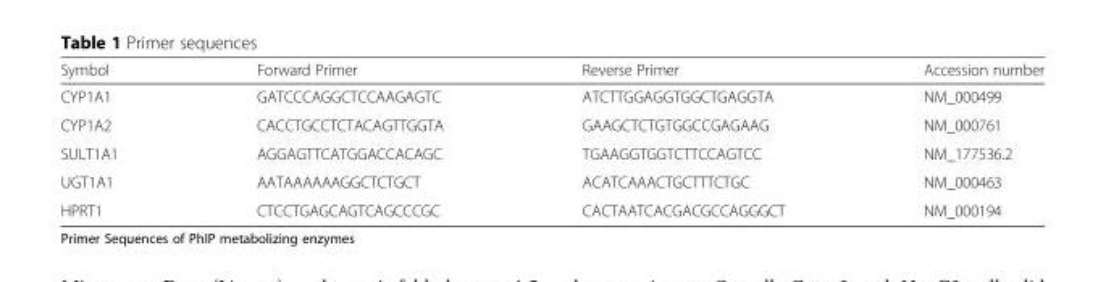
<table><thead><tr><td>Symbol</td><td>Forward Primer</td><td>Reverse Primer</td><td>Accession number</td></tr></thead><tbody><tr><td>CYP1A1</td><td>GATCCCAGGCTCCAAGAGTC</td><td>ATCTTGGAGGTGGCTGAGGTA</td><td>NM_000499</td></tr><tr><td>CYP1A2</td><td>CACCTGCCTCTACAGTTGGTA</td><td>GAAGCTCTGTGGCCGAGAAG</td><td>NM_000761</td></tr><tr><td>SULT1A1</td><td>AGGAGTTCATGGACCACAGC</td><td>TGAAGGTGGTCTTCCAGTCC</td><td>NM_177536.2</td></tr><tr><td>UGT1A1</td><td>AATAAAAAAGGCTCTGCT</td><td>ACATCAAACTGCTTTCTGC</td><td>NM_000463</td></tr><tr><td>HPRT1</td><td>CTCCTGAGCAGTCAGCCCGC</td><td>CACTAATCACGACGCCAGGGCT</td><td>NM_000194</td></tr></tbody></table>